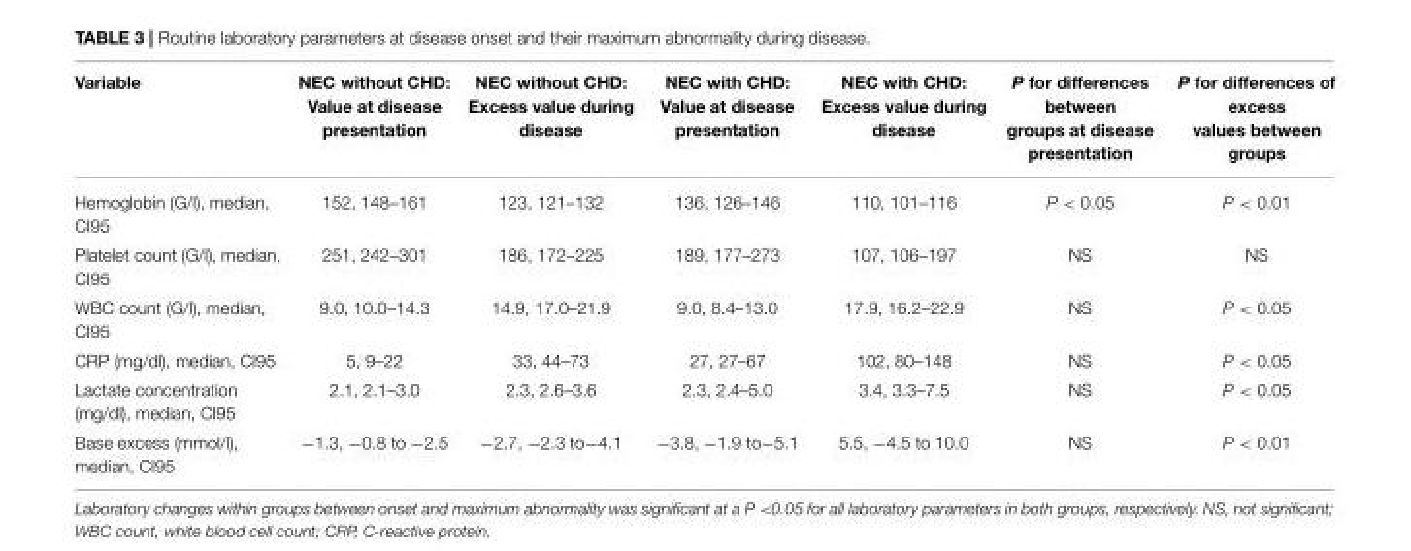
<table><thead><tr><td>Variable</td><td>NEC without CHD: Value at disease presentation</td><td>NEC without CHD: Excess value during disease</td><td>NEC with CHD: Value at disease presentation</td><td>NEC with CHD: Excess value during disease</td><td>P for differences between groups at disease presentation</td><td>P for differences of excess values between groups</td></tr></thead><tbody><tr><td>Hemoglobin (G/l), median, CI95</td><td>152, 148–161</td><td>123, 121–132</td><td>136, 126–146</td><td>110, 101–116</td><td>P &lt; 0.05</td><td>P &lt; 0.01</td></tr><tr><td>Platelet count (G/l), median, CI95</td><td>251, 242–301</td><td>186, 172–225</td><td>189, 177–273</td><td>107, 106–197</td><td>NS</td><td>NS</td></tr><tr><td>WBC count (G/l), median, CI95</td><td>9.0, 10.0–14.3</td><td>14.9, 17.0–21.9</td><td>9.0, 8.4–13.0</td><td>17.9, 16.2–22.9</td><td>NS</td><td>P &lt; 0.05</td></tr><tr><td>CRP (mg/dl), median, CI95</td><td>5, 9–22</td><td>33, 44–73</td><td>27, 27–67</td><td>102, 80–148</td><td>NS</td><td>P &lt; 0.05</td></tr><tr><td>Lactate concentration (mg/dl), median, CI95</td><td>2.1, 2.1–3.0</td><td>2.3, 2.6–3.6</td><td>2.3, 2.4–5.0</td><td>3.4, 3.3–7.5</td><td>NS</td><td>P &lt; 0.05</td></tr><tr><td>Base excess (mmol/l), median, CI95</td><td>−1.3, −0.8 to −2.5</td><td>−2.7, −2.3 to−4.1</td><td>−3.8, −1.9 to−5.1</td><td>5.5, −4.5 to 10.0</td><td>NS</td><td>P &lt; 0.01</td></tr></tbody></table>